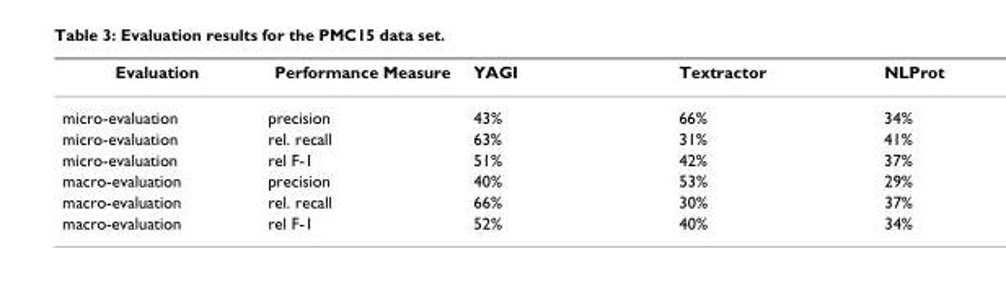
<table><thead><tr><td>Evaluation</td><td>Performance Measure</td><td>YAGI</td><td>Textractor</td><td>NLProt</td></tr></thead><tbody><tr><td>micro-evaluation</td><td>precision</td><td>43%</td><td>66%</td><td>34%</td></tr><tr><td>micro-evaluation</td><td>rel. recall</td><td>63%</td><td>31%</td><td>41%</td></tr><tr><td>micro-evaluation</td><td>rel F-1</td><td>51%</td><td>42%</td><td>37%</td></tr><tr><td>macro-evaluation</td><td>precision</td><td>40%</td><td>53%</td><td>29%</td></tr><tr><td>macro-evaluation</td><td>rel. recall</td><td>66%</td><td>30%</td><td>37%</td></tr><tr><td>macro-evaluation</td><td>rel F-1</td><td>52%</td><td>40%</td><td>34%</td></tr></tbody></table>